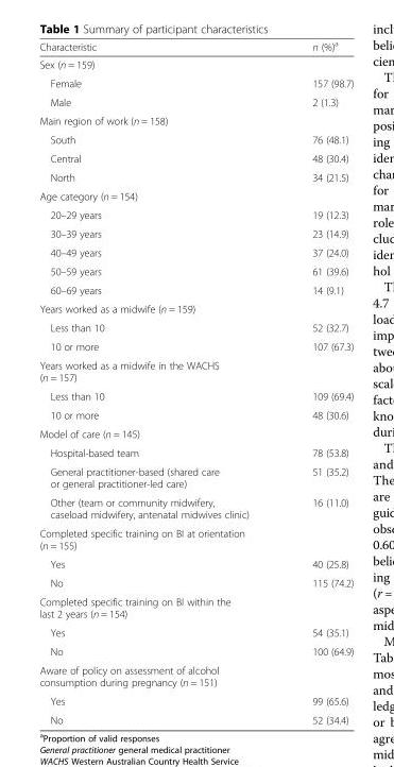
<table><thead><tr><td>Characteristic</td><td>n (%)<sup>a</sup></td></tr></thead><tbody><tr><td colspan="2">Sex (n = 159)</td></tr><tr><td>Female</td><td>157 (98.7)</td></tr><tr><td>Male</td><td>2 (1.3)</td></tr><tr><td colspan="2">Main region of work (n = 158)</td></tr><tr><td>South</td><td>76 (48.1)</td></tr><tr><td>Central</td><td>48 (30.4)</td></tr><tr><td>North</td><td>34 (21.5)</td></tr><tr><td colspan="2">Age category (n = 154)</td></tr><tr><td>20–29 years</td><td>19 (12.3)</td></tr><tr><td>30–39 years</td><td>23 (14.9)</td></tr><tr><td>40–49 years</td><td>37 (24.0)</td></tr><tr><td>50–59 years</td><td>61 (39.6)</td></tr><tr><td>60–69 years</td><td>14 (9.1)</td></tr><tr><td colspan="2">Years worked as a midwife (n = 159)</td></tr><tr><td>Less than 10</td><td>52 (32.7)</td></tr><tr><td>10 or more</td><td>107 (67.3)</td></tr><tr><td colspan="2">Years worked as a midwife in the WACHS (n = 157)</td></tr><tr><td>Less than 10</td><td>109 (69.4)</td></tr><tr><td>10 or more</td><td>48 (30.6)</td></tr><tr><td colspan="2">Model of care (n = 145)</td></tr><tr><td>Hospital-based team</td><td>78 (53.8)</td></tr><tr><td>General practitioner-based (shared care or general practitioner-led care)</td><td>51 (35.2)</td></tr><tr><td>Other (team or community midwifery, caseload midwifery, antenatal midwives clinic)</td><td>16 (11.0)</td></tr><tr><td colspan="2">Completed specific training on BI at orientation (n = 155)</td></tr><tr><td>Yes</td><td>40 (25.8)</td></tr><tr><td>No</td><td>115 (74.2)</td></tr><tr><td colspan="2">Completed specific training on BI within the last 2 years (n = 154)</td></tr><tr><td>Yes</td><td>54 (35.1)</td></tr><tr><td>No</td><td>100 (64.9)</td></tr><tr><td colspan="2">Aware of policy on assessment of alcohol consumption during pregnancy (n = 151)</td></tr><tr><td>Yes</td><td>99 (65.6)</td></tr><tr><td>No</td><td>52 (34.4)</td></tr></tbody></table>